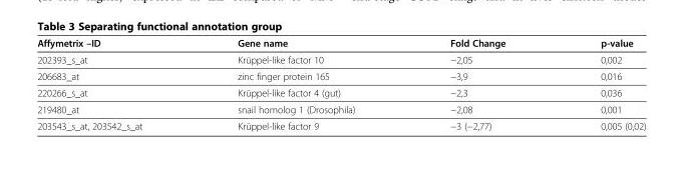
<table><thead><tr><td>Affymetrix –ID</td><td>Gene name</td><td>Fold Change</td><td>p-value</td></tr></thead><tbody><tr><td>202393_s_at</td><td>Krüppel-like factor 10</td><td>−2,05</td><td>0,002</td></tr><tr><td>206683_at</td><td>zinc finger protein 165</td><td>−3,9</td><td>0,016</td></tr><tr><td>220266_s_at</td><td>Krüppel-like factor 4 (gut)</td><td>−2,3</td><td>0,036</td></tr><tr><td>219480_at</td><td>snail homolog 1 (Drosophila)</td><td>−2,08</td><td>0,001</td></tr><tr><td>203543_s_at, 203542_s_at</td><td>Krüppel-like factor 9</td><td>−3 (−2,77)</td><td>0,005 (0,02)</td></tr></tbody></table>